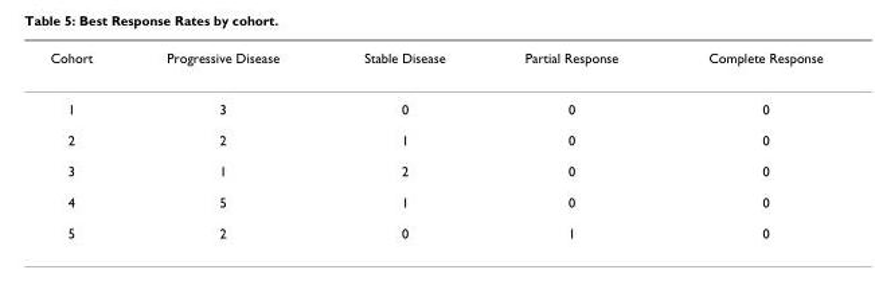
<table><thead><tr><td>Cohort</td><td>Progressive Disease</td><td>Stable Disease</td><td>Partial Response</td><td>Complete Response</td></tr></thead><tbody><tr><td>1</td><td>3</td><td>0</td><td>0</td><td>0</td></tr><tr><td>2</td><td>2</td><td>1</td><td>0</td><td>0</td></tr><tr><td>3</td><td>1</td><td>2</td><td>0</td><td>0</td></tr><tr><td>4</td><td>5</td><td>1</td><td>0</td><td>0</td></tr><tr><td>5</td><td>2</td><td>0</td><td>1</td><td>0</td></tr></tbody></table>